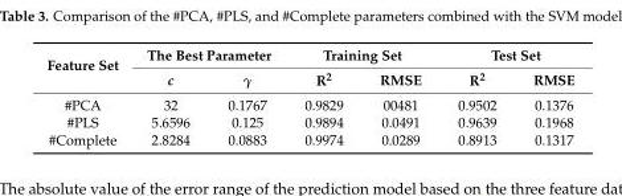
<table><thead><tr><td rowspan="2">Feature Set</td><td colspan="2">The Best Parameter</td><td colspan="2">Training Set</td><td colspan="2">Test Set</td></tr><tr><td>c</td><td>γ</td><td>R<sup>2</sup></td><td>RMSE</td><td>R<sup>2</sup></td><td>RMSE</td></tr></thead><tbody><tr><td>#PCA</td><td>32</td><td>0.1767</td><td>0.9829</td><td>00481</td><td>0.9502</td><td>0.1376</td></tr><tr><td>#PLS</td><td>5.6596</td><td>0.125</td><td>0.9894</td><td>0.0491</td><td>0.9639</td><td>0.1968</td></tr><tr><td>#Complete</td><td>2.8284</td><td>0.0883</td><td>0.9974</td><td>0.0289</td><td>0.8913</td><td>0.1317</td></tr></tbody></table>